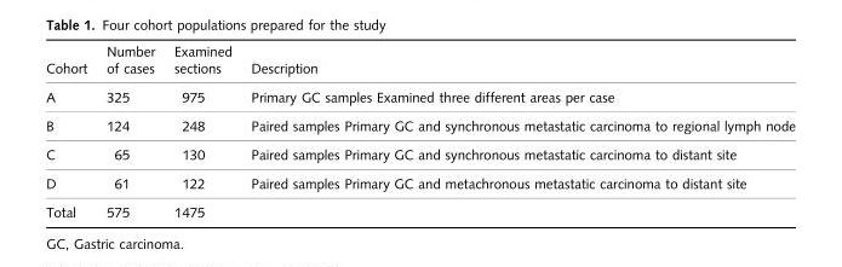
<table><thead><tr><td>Cohort</td><td>Number of cases</td><td>Examined sections</td><td>Description</td></tr></thead><tbody><tr><td>A</td><td>325</td><td>975</td><td>Primary GC samples Examined three different areas per case</td></tr><tr><td>B</td><td>124</td><td>248</td><td>Paired samples Primary GC and synchronous metastatic carcinoma to regional lymph node</td></tr><tr><td>C</td><td>65</td><td>130</td><td>Paired samples Primary GC and synchronous metastatic carcinoma to distant site</td></tr><tr><td>D</td><td>61</td><td>122</td><td>Paired samples Primary GC and metachronous metastatic carcinoma to distant site</td></tr><tr><td>Total</td><td>575</td><td>1475</td><td></td></tr></tbody></table>